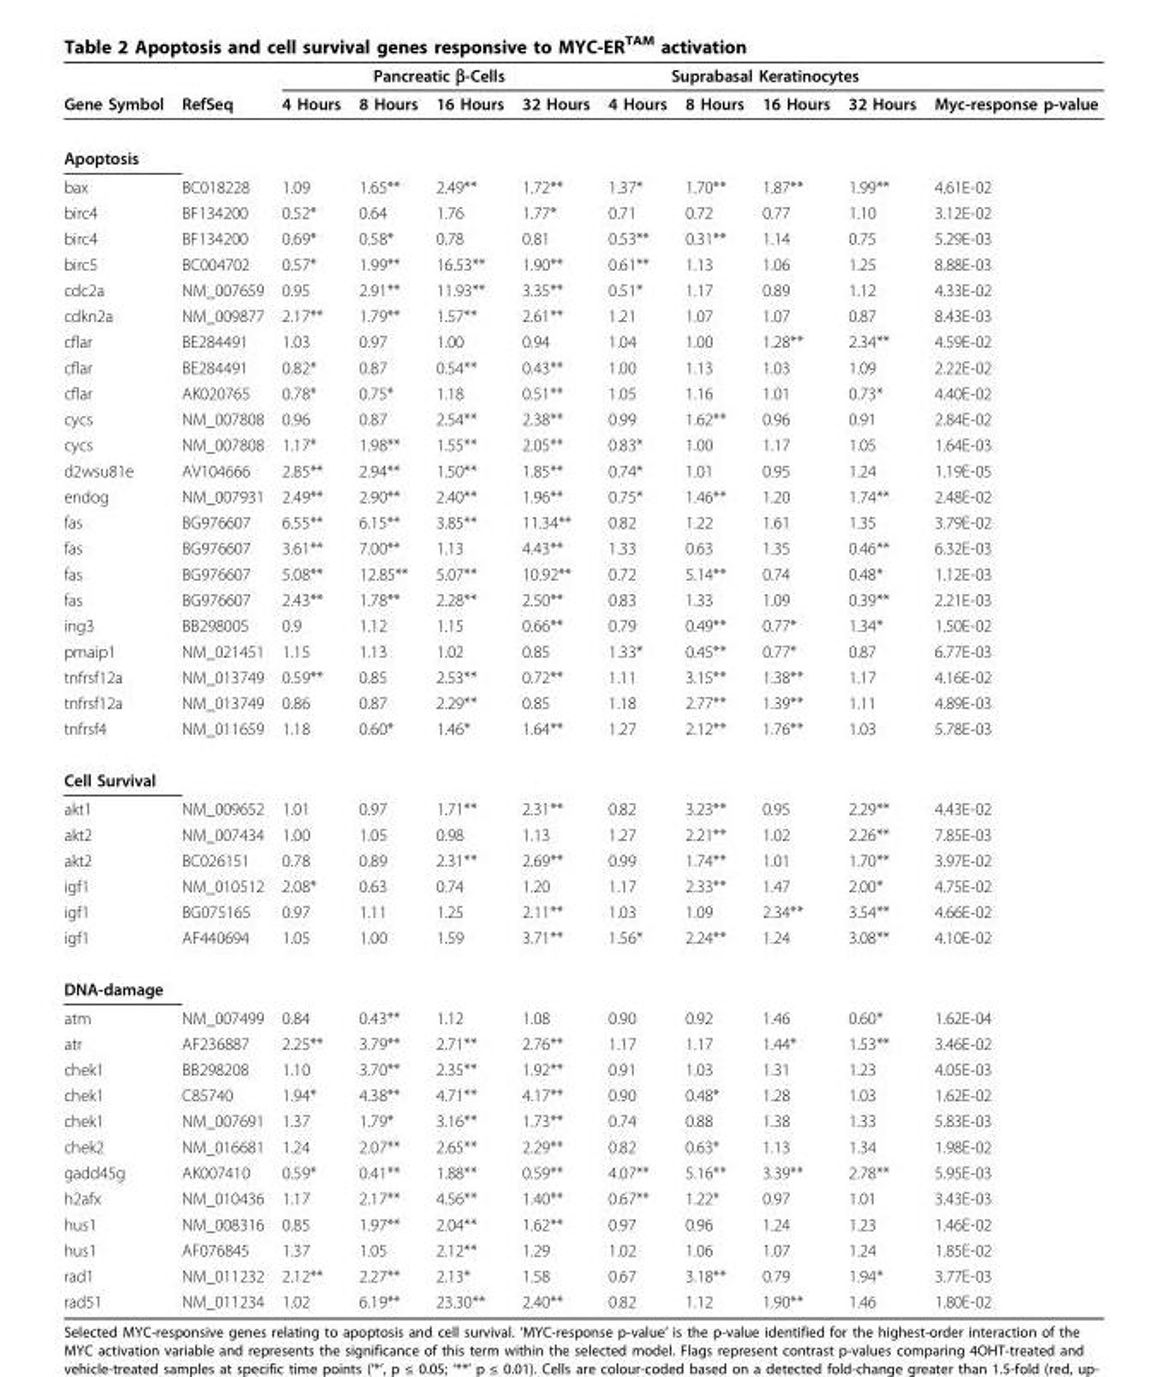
<table><thead><tr><td rowspan="2">Gene Symbol</td><td rowspan="2">RefSeq</td><td colspan="4">Pancreatic β-Cells</td><td colspan="4">Suprabasal Keratinocytes</td><td rowspan="2">Myc-response p-value</td></tr><tr><td>4 Hours</td><td>8 Hours</td><td>16 Hours</td><td>32 Hours</td><td>4 Hours</td><td>8 Hours</td><td>16 Hours</td><td>32 Hours</td></tr></thead><tbody><tr><td colspan="11">Apoptosis</td></tr><tr><td>bax</td><td>BC018228</td><td>1.09</td><td>1.65**</td><td>2.49**</td><td>1.72**</td><td>1.37*</td><td>1.70**</td><td>1.87**</td><td>1.99**</td><td>4.61E-02</td></tr><tr><td>birc4</td><td>BF134200</td><td>0.52*</td><td>0.64</td><td>1.76</td><td>1.77*</td><td>0.71</td><td>0.72</td><td>0.77</td><td>1.10</td><td>3.12E-02</td></tr><tr><td>birc4</td><td>BF134200</td><td>0.69*</td><td>0.58*</td><td>0.78</td><td>0.81</td><td>0.53**</td><td>0.31**</td><td>1.14</td><td>0.75</td><td>5.29E-03</td></tr><tr><td>birc5</td><td>BC004702</td><td>0.57*</td><td>1.99**</td><td>16.53**</td><td>1.90**</td><td>0.61**</td><td>1.13</td><td>1.06</td><td>1.25</td><td>8.88E-03</td></tr><tr><td>cdc2a</td><td>NM_007659</td><td>0.95</td><td>2.91**</td><td>11.93**</td><td>3.35**</td><td>0.51*</td><td>1.17</td><td>0.89</td><td>1.12</td><td>4.33E-02</td></tr><tr><td>cdkn2a</td><td>NM_009877</td><td>2.17**</td><td>1.79**</td><td>1.57**</td><td>2.61**</td><td>1.21</td><td>1.07</td><td>1.07</td><td>0.87</td><td>8.43E-03</td></tr><tr><td>cflar</td><td>BE284491</td><td>1.03</td><td>0.97</td><td>1.00</td><td>0.94</td><td>1.04</td><td>1.00</td><td>1.28**</td><td>2.34**</td><td>4.59E-02</td></tr><tr><td>cflar</td><td>BE284491</td><td>0.82*</td><td>0.87</td><td>0.54**</td><td>0.43**</td><td>1.00</td><td>1.13</td><td>1.03</td><td>1.09</td><td>2.22E-02</td></tr><tr><td>cflar</td><td>AK020765</td><td>0.78*</td><td>0.75*</td><td>1.18</td><td>0.51**</td><td>1.05</td><td>1.16</td><td>1.01</td><td>0.73*</td><td>4.40E-02</td></tr><tr><td>cycs</td><td>NM_007808</td><td>0.96</td><td>0.87</td><td>2.54**</td><td>2.38**</td><td>0.99</td><td>1.62**</td><td>0.96</td><td>0.91</td><td>2.84E-02</td></tr><tr><td>cycs</td><td>NM_007808</td><td>1.17*</td><td>1.98**</td><td>1.55**</td><td>2.05**</td><td>0.83*</td><td>1.00</td><td>1.17</td><td>1.05</td><td>1.64E-03</td></tr><tr><td>d2wsu81e</td><td>AV104666</td><td>2.85**</td><td>2.94**</td><td>1.50**</td><td>1.85**</td><td>0.74*</td><td>1.01</td><td>0.95</td><td>1.24</td><td>1.19E-05</td></tr><tr><td>endog</td><td>NM_007931</td><td>2.49**</td><td>2.90**</td><td>2.40**</td><td>1.96**</td><td>0.75*</td><td>1.46**</td><td>1.20</td><td>1.74**</td><td>2.48E-02</td></tr><tr><td>fas</td><td>BG976607</td><td>6.55**</td><td>6.15**</td><td>3.85**</td><td>11.34**</td><td>0.82</td><td>1.22</td><td>1.61</td><td>1.35</td><td>3.79E-02</td></tr><tr><td>fas</td><td>BG976607</td><td>3.61**</td><td>7.00**</td><td>1.13</td><td>4.43**</td><td>1.33</td><td>0.63</td><td>1.35</td><td>0.46**</td><td>6.32E-03</td></tr><tr><td>fas</td><td>BG976607</td><td>5.08**</td><td>12.85**</td><td>5.07**</td><td>10.92**</td><td>0.72</td><td>5.14**</td><td>0.74</td><td>0.48*</td><td>1.12E-03</td></tr><tr><td>fas</td><td>BG976607</td><td>2.43**</td><td>1.78**</td><td>2.28**</td><td>2.50**</td><td>0.83</td><td>1.33</td><td>1.09</td><td>0.39**</td><td>2.21E-03</td></tr><tr><td>ing3</td><td>BB298005</td><td>0.9</td><td>1.12</td><td>1.15</td><td>0.66**</td><td>0.79</td><td>0.49**</td><td>0.77*</td><td>1.34*</td><td>1.50E-02</td></tr><tr><td>pmaip1</td><td>NM_021451</td><td>1.15</td><td>1.13</td><td>1.02</td><td>0.85</td><td>1.33*</td><td>0.45**</td><td>0.77*</td><td>0.87</td><td>6.77E-03</td></tr><tr><td>tnfrsf12a</td><td>NM_013749</td><td>0.59**</td><td>0.85</td><td>2.53**</td><td>0.72**</td><td>1.11</td><td>3.15**</td><td>1.38**</td><td>1.17</td><td>4.16E-02</td></tr><tr><td>tnfrsf12a</td><td>NM_013749</td><td>0.86</td><td>0.87</td><td>2.29**</td><td>0.85</td><td>1.18</td><td>2.77**</td><td>1.39**</td><td>1.11</td><td>4.89E-03</td></tr><tr><td>tnfrsf4</td><td>NM_011659</td><td>1.18</td><td>0.60*</td><td>1.46*</td><td>1.64**</td><td>1.27</td><td>2.12**</td><td>1.76**</td><td>1.03</td><td>5.78E-03</td></tr><tr><td colspan="11">Cell Survival</td></tr><tr><td>akt1</td><td>NM_009652</td><td>1.01</td><td>0.97</td><td>1.71**</td><td>2.31**</td><td>0.82</td><td>3.23**</td><td>0.95</td><td>2.29**</td><td>4.43E-02</td></tr><tr><td>akt2</td><td>NM_007434</td><td>1.00</td><td>1.05</td><td>0.98</td><td>1.13</td><td>1.27</td><td>2.21**</td><td>1.02</td><td>2.26**</td><td>7.85E-03</td></tr><tr><td>akt2</td><td>BC026151</td><td>0.78</td><td>0.89</td><td>2.31**</td><td>2.69**</td><td>0.99</td><td>1.74**</td><td>1.01</td><td>1.70**</td><td>3.97E-02</td></tr><tr><td>igf1</td><td>NM_010512</td><td>2.08*</td><td>0.63</td><td>0.74</td><td>1.20</td><td>1.17</td><td>2.33**</td><td>1.47</td><td>2.00*</td><td>4.75E-02</td></tr><tr><td>igf1</td><td>BG075165</td><td>0.97</td><td>1.11</td><td>1.25</td><td>2.11**</td><td>1.03</td><td>1.09</td><td>2.34**</td><td>3.54**</td><td>4.66E-02</td></tr><tr><td>igf1</td><td>AF440694</td><td>1.05</td><td>1.00</td><td>1.59</td><td>3.71**</td><td>1.56*</td><td>2.24**</td><td>1.24</td><td>3.08**</td><td>4.10E-02</td></tr><tr><td colspan="11">DNA-damage</td></tr><tr><td>atm</td><td>NM_007499</td><td>0.84</td><td>0.43**</td><td>1.12</td><td>1.08</td><td>0.90</td><td>0.92</td><td>1.46</td><td>0.60*</td><td>1.62E-04</td></tr><tr><td>atr</td><td>AF236887</td><td>2.25**</td><td>3.79**</td><td>2.71**</td><td>2.76**</td><td>1.17</td><td>1.17</td><td>1.44*</td><td>1.53**</td><td>3.46E-02</td></tr><tr><td>chek1</td><td>BB298208</td><td>1.10</td><td>3.70**</td><td>2.35**</td><td>1.92**</td><td>0.91</td><td>1.03</td><td>1.31</td><td>1.23</td><td>4.05E-03</td></tr><tr><td>chek1</td><td>C85740</td><td>1.94*</td><td>4.38**</td><td>4.71**</td><td>4.17**</td><td>0.90</td><td>0.48*</td><td>1.28</td><td>1.03</td><td>1.62E-02</td></tr><tr><td>chek1</td><td>NM_007691</td><td>1.37</td><td>1.79*</td><td>3.16**</td><td>1.73**</td><td>0.74</td><td>0.88</td><td>1.38</td><td>1.33</td><td>5.83E-03</td></tr><tr><td>chek2</td><td>NM_016681</td><td>1.24</td><td>2.07**</td><td>2.65**</td><td>2.29**</td><td>0.82</td><td>0.63*</td><td>1.13</td><td>1.34</td><td>1.98E-02</td></tr><tr><td>gadd45g</td><td>AK007410</td><td>0.59*</td><td>0.41**</td><td>1.88**</td><td>0.59**</td><td>4.07**</td><td>5.16**</td><td>3.39**</td><td>2.78**</td><td>5.95E-03</td></tr><tr><td>h2afx</td><td>NM_010436</td><td>1.17</td><td>2.17**</td><td>4.56**</td><td>1.40**</td><td>0.67**</td><td>1.22*</td><td>0.97</td><td>1.01</td><td>3.43E-03</td></tr><tr><td>hus1</td><td>NM_008316</td><td>0.85</td><td>1.97**</td><td>2.04**</td><td>1.62**</td><td>0.97</td><td>0.96</td><td>1.24</td><td>1.23</td><td>1.46E-02</td></tr><tr><td>hus1</td><td>AF076845</td><td>1.37</td><td>1.05</td><td>2.12**</td><td>1.29</td><td>1.02</td><td>1.06</td><td>1.07</td><td>1.24</td><td>1.85E-02</td></tr><tr><td>rad1</td><td>NM_011232</td><td>2.12**</td><td>2.27**</td><td>2.13*</td><td>1.58</td><td>0.67</td><td>3.18**</td><td>0.79</td><td>1.94*</td><td>3.77E-03</td></tr><tr><td>rad51</td><td>NM_011234</td><td>1.02</td><td>6.19**</td><td>23.30**</td><td>2.40**</td><td>0.82</td><td>1.12</td><td>1.90**</td><td>1.46</td><td>1.80E-02</td></tr></tbody></table>